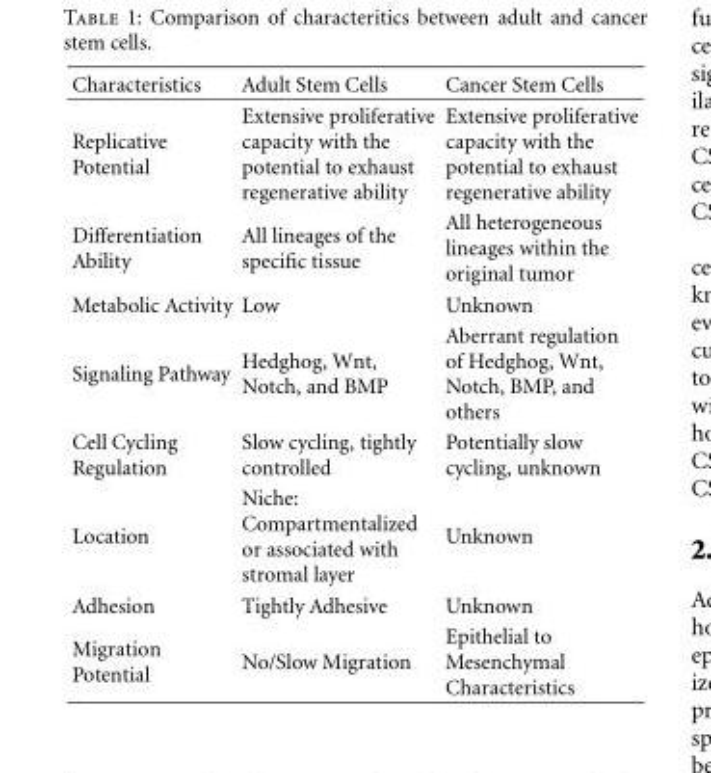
<table><thead><tr><td>Characteristics</td><td>Adult Stem Cells</td><td>Cancer Stem Cells</td></tr></thead><tbody><tr><td>Replicative Potential</td><td>Extensive proliferative capacity with the potential to exhaust regenerative ability</td><td>Extensive proliferative capacity with the potential to exhaust regenerative ability</td></tr><tr><td>Differentiation Ability</td><td>All lineages of the specific tissue</td><td>All heterogeneous lineages within the original tumor</td></tr><tr><td>Metabolic Activity</td><td>Low</td><td>Unknown</td></tr><tr><td>Signaling Pathway</td><td>Hedghog, Wnt, Notch, and BMP</td><td>Aberrant regulation of Hedghog, Wnt, Notch, BMP, and others</td></tr><tr><td>Cell Cycling Regulation</td><td>Slow cycling, tightly controlled</td><td>Potentially slow cycling, unknown</td></tr><tr><td>Location</td><td>Niche: Compartmentalized or associated with stromal layer</td><td>Unknown</td></tr><tr><td>Adhesion</td><td>Tightly Adhesive</td><td>Unknown</td></tr><tr><td>Migration Potential</td><td>No/Slow Migration</td><td>Epithelial to Mesenchymal Characteristics</td></tr></tbody></table>